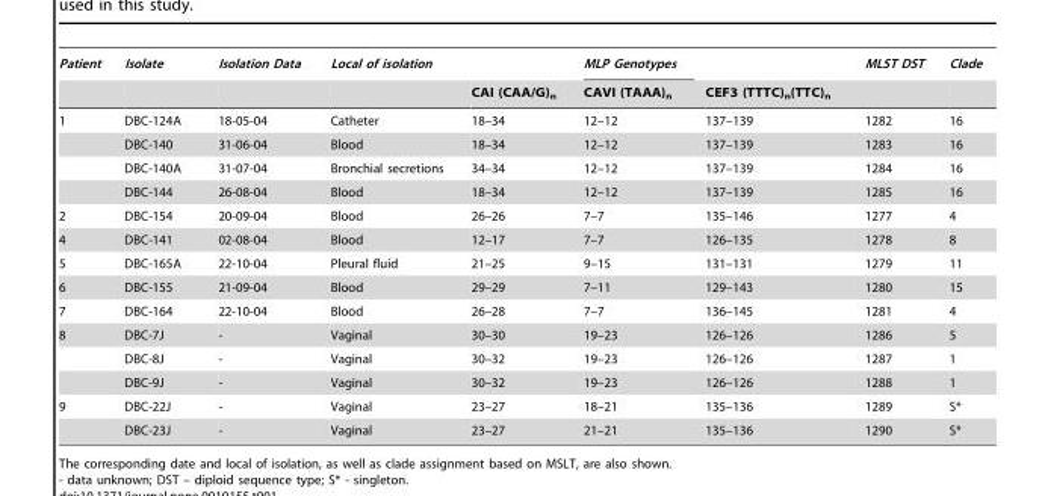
<table><thead><tr><td rowspan="2">Patient</td><td rowspan="2">Isolate</td><td rowspan="2">Isolation Data</td><td rowspan="2">Local of isolation</td><td rowspan="2">CAI (CAA/G)<sub>n</sub></td><td rowspan="2">MLP Genotypes CAVI (TAAA)<sub>n</sub></td><td rowspan="2">CEF3 (TTTC)<sub>n</sub>(TTC)<sub>n</sub></td><td rowspan="2">MLST DST</td><td rowspan="2">Clade</td></tr><tr></tr></thead><tbody><tr><td rowspan="4">1</td><td>DBC-124A</td><td>18-05-04</td><td>Catheter</td><td>18–34</td><td>12–12</td><td>137–139</td><td>1282</td><td>16</td></tr><tr><td>DBC-140</td><td>31-06-04</td><td>Blood</td><td>18–34</td><td>12–12</td><td>137–139</td><td>1283</td><td>16</td></tr><tr><td>DBC-140A</td><td>31-07-04</td><td>Bronchial secretions</td><td>34–34</td><td>12–12</td><td>137–139</td><td>1284</td><td>16</td></tr><tr><td>DBC-144</td><td>26-08-04</td><td>Blood</td><td>18–34</td><td>12–12</td><td>137–139</td><td>1285</td><td>16</td></tr><tr><td>2</td><td>DBC-154</td><td>20-09-04</td><td>Blood</td><td>26–26</td><td>7–7</td><td>135–146</td><td>1277</td><td>4</td></tr><tr><td>4</td><td>DBC-141</td><td>02-08-04</td><td>Blood</td><td>12–17</td><td>7–7</td><td>126–135</td><td>1278</td><td>8</td></tr><tr><td>5</td><td>DBC-165A</td><td>22-10-04</td><td>Pleural fluid</td><td>21–25</td><td>9–15</td><td>131–131</td><td>1279</td><td>11</td></tr><tr><td>6</td><td>DBC-155</td><td>21-09-04</td><td>Blood</td><td>29–29</td><td>7–11</td><td>129–143</td><td>1280</td><td>15</td></tr><tr><td>7</td><td>DBC-164</td><td>22-10-04</td><td>Blood</td><td>26–28</td><td>7–7</td><td>136–145</td><td>1281</td><td>4</td></tr><tr><td rowspan="3">8</td><td>DBC-7J</td><td>-</td><td>Vaginal</td><td>30–30</td><td>19–23</td><td>126–126</td><td>1286</td><td>5</td></tr><tr><td>DBC-8J</td><td>-</td><td>Vaginal</td><td>30–32</td><td>19–23</td><td>126–126</td><td>1287</td><td>1</td></tr><tr><td>DBC-9J</td><td>-</td><td>Vaginal</td><td>30–32</td><td>19–23</td><td>126–126</td><td>1288</td><td>1</td></tr><tr><td rowspan="2">9</td><td>DBC-22J</td><td>-</td><td>Vaginal</td><td>23–27</td><td>18–21</td><td>135–136</td><td>1289</td><td>S*</td></tr><tr><td>DBC-23J</td><td>-</td><td>Vaginal</td><td>23–27</td><td>21–21</td><td>135–136</td><td>1290</td><td>S*</td></tr></tbody></table>